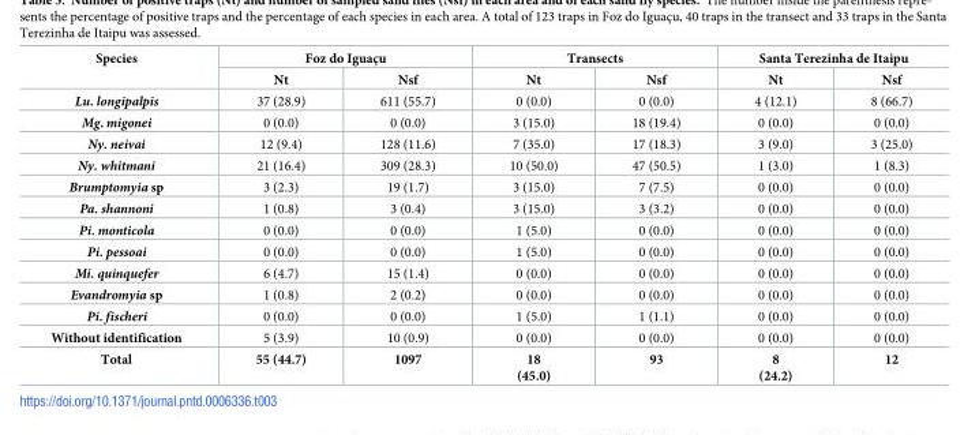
<table><thead><tr><td rowspan="2">Species</td><td colspan="2">Foz do Iguac¸u</td><td colspan="2">Transects</td><td colspan="2">Santa Terezinha de Itaipu</td></tr><tr><td>Nt</td><td>Nsf</td><td>Nt</td><td>Nsf</td><td>Nt</td><td>Nsf</td></tr></thead><tbody><tr><td>Lu. longipalpis</td><td>37 (28.9)</td><td>611 (55.7)</td><td>0 (0.0)</td><td>0 (0.0)</td><td>4 (12.1)</td><td>8 (66.7)</td></tr><tr><td>Mg. migonei</td><td>0 (0.0)</td><td>0 (0.0)</td><td>3 (15.0)</td><td>18 (19.4)</td><td>0 (0.0)</td><td>0 (0.0)</td></tr><tr><td>Ny. neivai</td><td>12 (9.4)</td><td>128 (11.6)</td><td>7 (35.0)</td><td>17 (18.3)</td><td>3 (9.0)</td><td>3 (25.0)</td></tr><tr><td>Ny. whitmani</td><td>21 (16.4)</td><td>309 (28.3)</td><td>10 (50.0)</td><td>47 (50.5)</td><td>1 (3.0)</td><td>1 (8.3)</td></tr><tr><td>Brumptomyia sp</td><td>3 (2.3)</td><td>19 (1.7)</td><td>3 (15.0)</td><td>7 (7.5)</td><td>0 (0.0)</td><td>0 (0.0)</td></tr><tr><td>Pa. shannoni</td><td>1 (0.8)</td><td>3 (0.4)</td><td>3 (15.0)</td><td>3 (3.2)</td><td>0 (0.0)</td><td>0 (0.0)</td></tr><tr><td>Pi. monticola</td><td>0 (0.0)</td><td>0 (0.0)</td><td>1 (5.0)</td><td>0 (0.0)</td><td>0 (0.0)</td><td>0 (0.0)</td></tr><tr><td>Pi. pessoai</td><td>0 (0.0)</td><td>0 (0.0)</td><td>1 (5.0)</td><td>0 (0.0)</td><td>0 (0.0)</td><td>0 (0.0)</td></tr><tr><td>Mi. quinquefer</td><td>6 (4.7)</td><td>15 (1.4)</td><td>0 (0.0)</td><td>0 (0.0)</td><td>0 (0.0)</td><td>0 (0.0)</td></tr><tr><td>Evandromyia sp</td><td>1 (0.8)</td><td>2 (0.2)</td><td>0 (0.0)</td><td>0 (0.0)</td><td>0 (0.0)</td><td>0 (0.0)</td></tr><tr><td>Pi. fischeri</td><td>0 (0.0)</td><td>0 (0.0)</td><td>1 (5.0)</td><td>1 (1.1)</td><td>0 (0.0)</td><td>0 (0.0)</td></tr><tr><td>Without identification</td><td>5 (3.9)</td><td>10 (0.9)</td><td>0 (0.0)</td><td>0 (0.0)</td><td>0 (0.0)</td><td>0 (0.0)</td></tr><tr><td>Total</td><td>55 (44.7)</td><td>1097</td><td>18 (45.0)</td><td>93</td><td>8 (24.2)</td><td>12</td></tr></tbody></table>